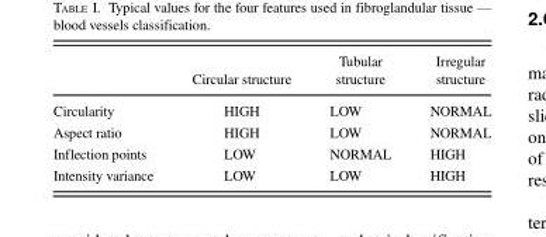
<table><thead><tr><td></td><td>Circular structure</td><td>Tubular structure</td><td>Irregular structure</td></tr></thead><tbody><tr><td>Circularity</td><td>HIGH</td><td>LOW</td><td>NORMAL</td></tr><tr><td>Aspect ratio</td><td>HIGH</td><td>LOW</td><td>NORMAL</td></tr><tr><td>Inflection points</td><td>LOW</td><td>NORMAL</td><td>HIGH</td></tr><tr><td>Intensity variance</td><td>LOW</td><td>LOW</td><td>HIGH</td></tr></tbody></table>